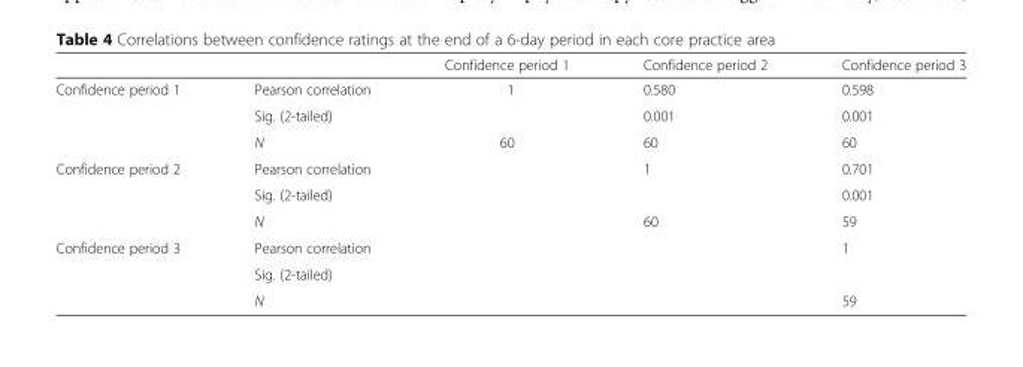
<table><thead><tr><td></td><td></td><td>Confidence period 1</td><td>Confidence period 2</td><td>Confidence period 3</td></tr></thead><tbody><tr><td rowspan="3">Confidence period 1</td><td>Pearson correlation</td><td>1</td><td>0.580</td><td>0.598</td></tr><tr><td>Sig. (2-tailed)</td><td></td><td>0.001</td><td>0.001</td></tr><tr><td>N</td><td>60</td><td>60</td><td>60</td></tr><tr><td rowspan="3">Confidence period 2</td><td>Pearson correlation</td><td></td><td>1</td><td>0.701</td></tr><tr><td>Sig. (2-tailed)</td><td></td><td></td><td>0.001</td></tr><tr><td>N</td><td></td><td>60</td><td>59</td></tr><tr><td rowspan="3">Confidence period 3</td><td>Pearson correlation</td><td></td><td></td><td>1</td></tr><tr><td>Sig. (2-tailed)</td><td></td><td></td><td></td></tr><tr><td>N</td><td></td><td></td><td>59</td></tr></tbody></table>